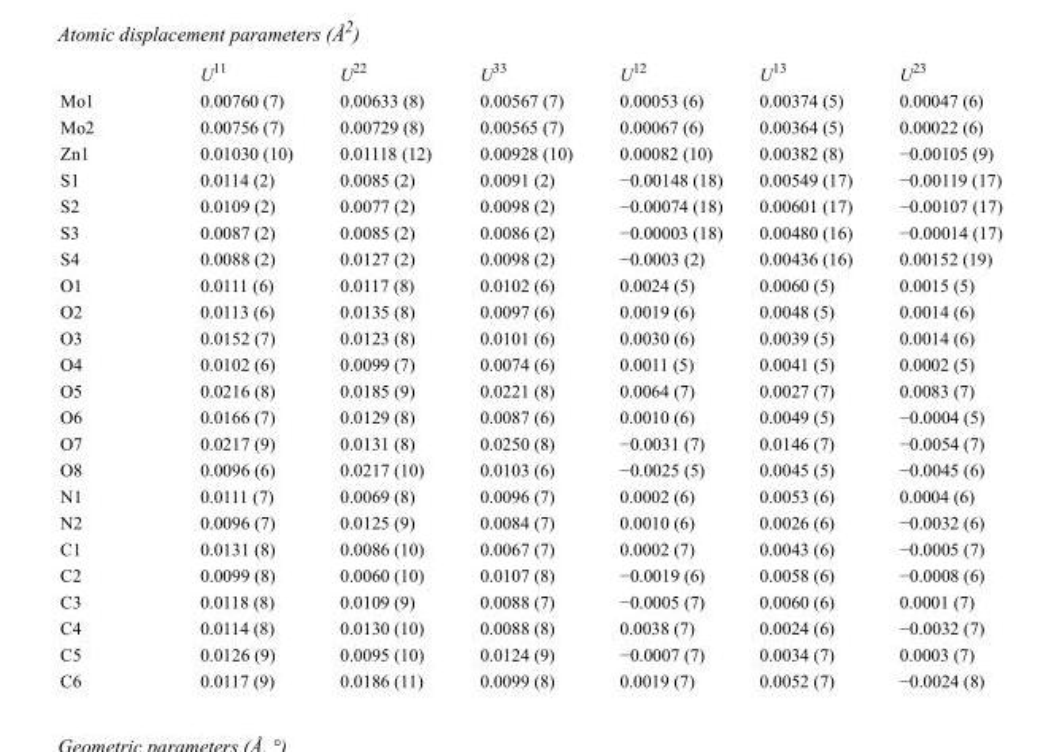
<table><thead><tr><td></td><td>U<sup>11</sup></td><td>U<sup>22</sup></td><td>U<sup>33</sup></td><td>U<sup>12</sup></td><td>U<sup>13</sup></td><td>U<sup>23</sup></td></tr></thead><tbody><tr><td>Mo1</td><td>0.00760 (7)</td><td>0.00633 (8)</td><td>0.00567 (7)</td><td>0.00053 (6)</td><td>0.00374 (5)</td><td>0.00047 (6)</td></tr><tr><td>Mo2</td><td>0.00756 (7)</td><td>0.00729 (8)</td><td>0.00565 (7)</td><td>0.00067 (6)</td><td>0.00364 (5)</td><td>0.00022 (6)</td></tr><tr><td>Zn1</td><td>0.01030 (10)</td><td>0.01118 (12)</td><td>0.00928 (10)</td><td>0.00082 (10)</td><td>0.00382 (8)</td><td>−0.00105 (9)</td></tr><tr><td>S1</td><td>0.0114 (2)</td><td>0.0085 (2)</td><td>0.0091 (2)</td><td>−0.00148 (18)</td><td>0.00549 (17)</td><td>−0.00119 (17)</td></tr><tr><td>S2</td><td>0.0109 (2)</td><td>0.0077 (2)</td><td>0.0098 (2)</td><td>−0.00074 (18)</td><td>0.00601 (17)</td><td>−0.00107 (17)</td></tr><tr><td>S3</td><td>0.0087 (2)</td><td>0.0085 (2)</td><td>0.0086 (2)</td><td>−0.00003 (18)</td><td>0.00480 (16)</td><td>−0.00014 (17)</td></tr><tr><td>S4</td><td>0.0088 (2)</td><td>0.0127 (2)</td><td>0.0098 (2)</td><td>−0.0003 (2)</td><td>0.00436 (16)</td><td>0.00152 (19)</td></tr><tr><td>O1</td><td>0.0111 (6)</td><td>0.0117 (8)</td><td>0.0102 (6)</td><td>0.0024 (5)</td><td>0.0060 (5)</td><td>0.0015 (5)</td></tr><tr><td>O2</td><td>0.0113 (6)</td><td>0.0135 (8)</td><td>0.0097 (6)</td><td>0.0019 (6)</td><td>0.0048 (5)</td><td>0.0014 (6)</td></tr><tr><td>O3</td><td>0.0152 (7)</td><td>0.0123 (8)</td><td>0.0101 (6)</td><td>0.0030 (6)</td><td>0.0039 (5)</td><td>0.0014 (6)</td></tr><tr><td>O4</td><td>0.0102 (6)</td><td>0.0099 (7)</td><td>0.0074 (6)</td><td>0.0011 (5)</td><td>0.0041 (5)</td><td>0.0002 (5)</td></tr><tr><td>O5</td><td>0.0216 (8)</td><td>0.0185 (9)</td><td>0.0221 (8)</td><td>0.0064 (7)</td><td>0.0027 (7)</td><td>0.0083 (7)</td></tr><tr><td>O6</td><td>0.0166 (7)</td><td>0.0129 (8)</td><td>0.0087 (6)</td><td>0.0010 (6)</td><td>0.0049 (5)</td><td>−0.0004 (5)</td></tr><tr><td>O7</td><td>0.0217 (9)</td><td>0.0131 (8)</td><td>0.0250 (8)</td><td>−0.0031 (7)</td><td>0.0146 (7)</td><td>−0.0054 (7)</td></tr><tr><td>O8</td><td>0.0096 (6)</td><td>0.0217 (10)</td><td>0.0103 (6)</td><td>−0.0025 (5)</td><td>0.0045 (5)</td><td>−0.0045 (6)</td></tr><tr><td>N1</td><td>0.0111 (7)</td><td>0.0069 (8)</td><td>0.0096 (7)</td><td>0.0002 (6)</td><td>0.0053 (6)</td><td>0.0004 (6)</td></tr><tr><td>N2</td><td>0.0096 (7)</td><td>0.0125 (9)</td><td>0.0084 (7)</td><td>0.0010 (6)</td><td>0.0026 (6)</td><td>−0.0032 (6)</td></tr><tr><td>C1</td><td>0.0131 (8)</td><td>0.0086 (10)</td><td>0.0067 (7)</td><td>0.0002 (7)</td><td>0.0043 (6)</td><td>−0.0005 (7)</td></tr><tr><td>C2</td><td>0.0099 (8)</td><td>0.0060 (10)</td><td>0.0107 (8)</td><td>−0.0019 (6)</td><td>0.0058 (6)</td><td>−0.0008 (6)</td></tr><tr><td>C3</td><td>0.0118 (8)</td><td>0.0109 (9)</td><td>0.0088 (7)</td><td>−0.0005 (7)</td><td>0.0060 (6)</td><td>0.0001 (7)</td></tr><tr><td>C4</td><td>0.0114 (8)</td><td>0.0130 (10)</td><td>0.0088 (8)</td><td>0.0038 (7)</td><td>0.0024 (6)</td><td>−0.0032 (7)</td></tr><tr><td>C5</td><td>0.0126 (9)</td><td>0.0095 (10)</td><td>0.0124 (9)</td><td>−0.0007 (7)</td><td>0.0034 (7)</td><td>0.0003 (7)</td></tr><tr><td>C6</td><td>0.0117 (9)</td><td>0.0186 (11)</td><td>0.0099 (8)</td><td>0.0019 (7)</td><td>0.0052 (7)</td><td>−0.0024 (8)</td></tr></tbody></table>